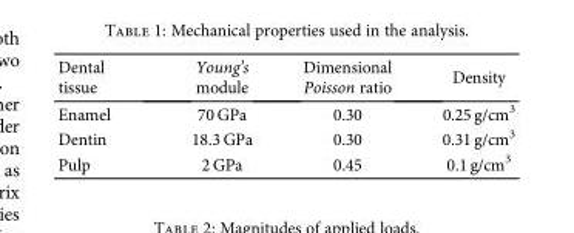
<table><thead><tr><td>Dental tissue</td><td>Young’s module</td><td>Dimensional Poisson ratio</td><td>Density</td></tr></thead><tbody><tr><td>Enamel</td><td>70 GPa</td><td>0.30</td><td>0.25 g/cm<sup>3</sup></td></tr><tr><td>Dentin</td><td>18.3 GPa</td><td>0.30</td><td>0.31 g/cm<sup>3</sup></td></tr><tr><td>Pulp</td><td>2 GPa</td><td>0.45</td><td>0.1 g/cm<sup>3</sup></td></tr></tbody></table>